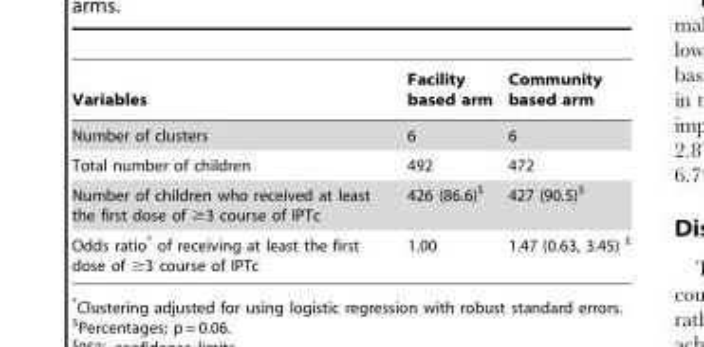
<table><thead><tr><td>Variables</td><td>Facility based arm</td><td>Community based arm</td></tr></thead><tbody><tr><td>Number of clusters</td><td>6</td><td>6</td></tr><tr><td>Total number of children</td><td>492</td><td>472</td></tr><tr><td>Number of children who received at least the first dose of ≥3 course of IPTc</td><td>426 (86.6)$</td><td>427 (90.5)$</td></tr><tr><td>Odds ratio* of receiving at least the first dose of ≥3 course of IPTc</td><td>1.00</td><td>1.47 (0.63, 3.45) £</td></tr></tbody></table>